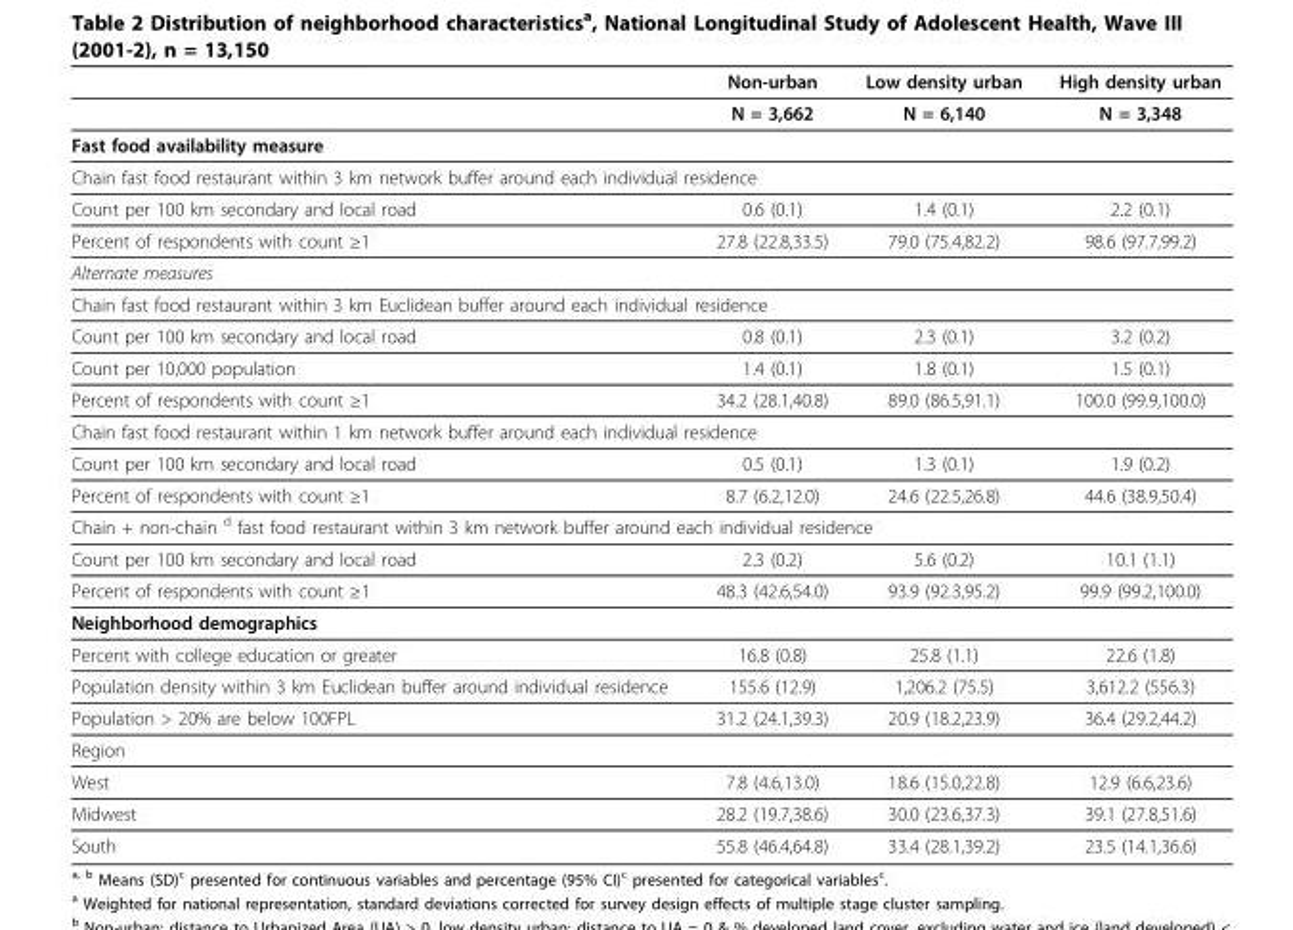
<table><thead><tr><td></td><td>Non-urban</td><td>Low density urban</td><td>High density urban</td></tr></thead><tbody><tr><td></td><td>N = 3,662</td><td>N = 6,140</td><td>N = 3,348</td></tr><tr><td colspan="4">Fast food availability measure</td></tr><tr><td colspan="4">Chain fast food restaurant within 3 km network buffer around each individual residence</td></tr><tr><td>Count per 100 km secondary and local road</td><td>0.6 (0.1)</td><td>1.4 (0.1)</td><td>2.2 (0.1)</td></tr><tr><td>Percent of respondents with count ≥1</td><td>27.8 (22.8,33.5)</td><td>79.0 (75.4,82.2)</td><td>98.6 (97.7,99.2)</td></tr><tr><td colspan="4">Alternate measures</td></tr><tr><td colspan="4">Chain fast food restaurant within 3 km Euclidean buffer around each individual residence</td></tr><tr><td>Count per 100 km secondary and local road</td><td>0.8 (0.1)</td><td>2.3 (0.1)</td><td>3.2 (0.2)</td></tr><tr><td>Count per 10,000 population</td><td>1.4 (0.1)</td><td>1.8 (0.1)</td><td>1.5 (0.1)</td></tr><tr><td>Percent of respondents with count ≥1</td><td>34.2 (28.1,40.8)</td><td>89.0 (86.5,91.1)</td><td>100.0 (99.9,100.0)</td></tr><tr><td colspan="4">Chain fast food restaurant within 1 km network buffer around each individual residence</td></tr><tr><td>Count per 100 km secondary and local road</td><td>0.5 (0.1)</td><td>1.3 (0.1)</td><td>1.9 (0.2)</td></tr><tr><td>Percent of respondents with count ≥1</td><td>8.7 (6.2,12.0)</td><td>24.6 (22.5,26.8)</td><td>44.6 (38.9,50.4)</td></tr><tr><td colspan="4">Chain + non-chain d fast food restaurant within 3 km network buffer around each individual residence</td></tr><tr><td>Count per 100 km secondary and local road</td><td>2.3 (0.2)</td><td>5.6 (0.2)</td><td>10.1 (1.1)</td></tr><tr><td>Percent of respondents with count ≥1</td><td>48.3 (42.6,54.0)</td><td>93.9 (92.3,95.2)</td><td>99.9 (99.2,100.0)</td></tr><tr><td colspan="4">Neighborhood demographics</td></tr><tr><td>Percent with college education or greater</td><td>16.8 (0.8)</td><td>25.8 (1.1)</td><td>22.6 (1.8)</td></tr><tr><td>Population density within 3 km Euclidean buffer around individual residence</td><td>155.6 (12.9)</td><td>1,206.2 (75.5)</td><td>3,612.2 (556.3)</td></tr><tr><td>Population &gt; 20% are below 100FPL</td><td>31.2 (24.1,39.3)</td><td>20.9 (18.2,23.9)</td><td>36.4 (29.2,44.2)</td></tr><tr><td colspan="4">Region</td></tr><tr><td>West</td><td>7.8 (4.6,13.0)</td><td>18.6 (15.0,22.8)</td><td>12.9 (6.6,23.6)</td></tr><tr><td>Midwest</td><td>28.2 (19.7,38.6)</td><td>30.0 (23.6,37.3)</td><td>39.1 (27.8,51.6)</td></tr><tr><td>South</td><td>55.8 (46.4,64.8)</td><td>33.4 (28.1,39.2)</td><td>23.5 (14.1,36.6)</td></tr></tbody></table>